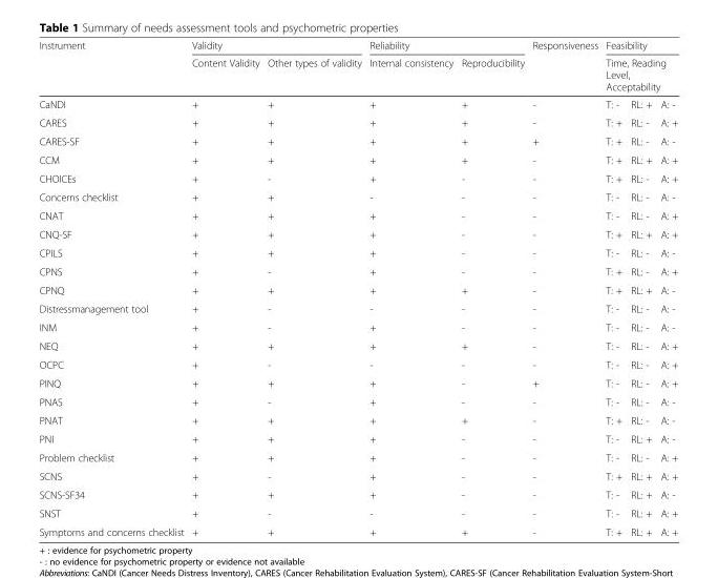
<table><thead><tr><td rowspan="3">Instrument CaNDI</td><td colspan="2">Validity</td><td colspan="2">Reliability</td><td rowspan="3">Responsiveness -</td><td rowspan="2" colspan="3">Feasibility Time, Reading Level, Acceptability</td></tr><tr><td rowspan="2">Content Validity +</td><td rowspan="2">Other types of validity +</td><td rowspan="2">Internal consistency +</td><td rowspan="2">Reproducibility +</td></tr><tr><td>T: -</td><td>RL: +</td><td>A: -</td></tr></thead><tbody><tr><td>CARES</td><td>+</td><td>+</td><td>+</td><td>+</td><td>-</td><td>T: +</td><td>RL: -</td><td>A: +</td></tr><tr><td>CARES-SF</td><td>+</td><td>+</td><td>+</td><td>+</td><td>+</td><td>T: +</td><td>RL: -</td><td>A: -</td></tr><tr><td>CCM</td><td>+</td><td>+</td><td>+</td><td>+</td><td>-</td><td>T: +</td><td>RL: +</td><td>A: +</td></tr><tr><td>CHOICEs</td><td>+</td><td>-</td><td>+</td><td>-</td><td>-</td><td>T: +</td><td>RL: -</td><td>A: +</td></tr><tr><td>Concerns checklist</td><td>+</td><td>+</td><td>-</td><td>-</td><td>-</td><td>T: -</td><td>RL: -</td><td>A: -</td></tr><tr><td>CNAT</td><td>+</td><td>+</td><td>+</td><td>-</td><td>-</td><td>T: -</td><td>RL: -</td><td>A: +</td></tr><tr><td>CNQ-SF</td><td>+</td><td>+</td><td>+</td><td>-</td><td>-</td><td>T: +</td><td>RL: +</td><td>A: +</td></tr><tr><td>CPILS</td><td>+</td><td>+</td><td>+</td><td>-</td><td>-</td><td>T: -</td><td>RL: -</td><td>A: -</td></tr><tr><td>CPNS</td><td>+</td><td>-</td><td>+</td><td>-</td><td>-</td><td>T: +</td><td>RL: -</td><td>A: +</td></tr><tr><td>CPNQ</td><td>+</td><td>+</td><td>+</td><td>+</td><td>-</td><td>T: +</td><td>RL: +</td><td>A: -</td></tr><tr><td>Distressmanagement tool</td><td>+</td><td>-</td><td>-</td><td>-</td><td>-</td><td>T: -</td><td>RL: -</td><td>A: -</td></tr><tr><td>INM</td><td>+</td><td>-</td><td>+</td><td>-</td><td>-</td><td>T: -</td><td>RL: -</td><td>A: -</td></tr><tr><td>NEQ</td><td>+</td><td>+</td><td>+</td><td>+</td><td>-</td><td>T: -</td><td>RL: -</td><td>A: +</td></tr><tr><td>OCPC</td><td>+</td><td>-</td><td>-</td><td>-</td><td>-</td><td>T: -</td><td>RL: -</td><td>A: +</td></tr><tr><td>PINQ</td><td>+</td><td>+</td><td>+</td><td>-</td><td>+</td><td>T: -</td><td>RL: -</td><td>A: +</td></tr><tr><td>PNAS</td><td>+</td><td>-</td><td>+</td><td>-</td><td>-</td><td>T: -</td><td>RL: -</td><td>A: -</td></tr><tr><td>PNAT</td><td>+</td><td>+</td><td>+</td><td>+</td><td>-</td><td>T: +</td><td>RL: -</td><td>A: -</td></tr><tr><td>PNI</td><td>+</td><td>+</td><td>+</td><td>-</td><td>-</td><td>T: -</td><td>RL: +</td><td>A: -</td></tr><tr><td>Problem checklist</td><td>+</td><td>+</td><td>+</td><td>-</td><td>-</td><td>T: -</td><td>RL: -</td><td>A: +</td></tr><tr><td>SCNS</td><td>+</td><td>-</td><td>+</td><td>-</td><td>-</td><td>T: +</td><td>RL: +</td><td>A: +</td></tr><tr><td>SCNS-SF34</td><td>+</td><td>+</td><td>+</td><td>-</td><td>-</td><td>T: -</td><td>RL: +</td><td>A: -</td></tr><tr><td>SNST</td><td>+</td><td>-</td><td>-</td><td>-</td><td>-</td><td>T: -</td><td>RL: +</td><td>A: +</td></tr><tr><td>Symptoms and concerns checklist</td><td>+</td><td>+</td><td>+</td><td>+</td><td>-</td><td>T: +</td><td>RL: +</td><td>A: +</td></tr></tbody></table>